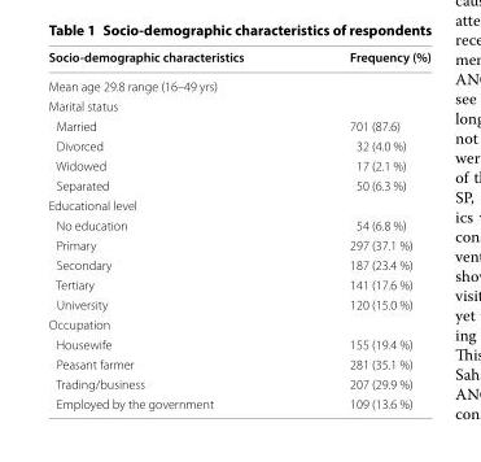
<table><thead><tr><td>Socio-demographic characteristics</td><td>Frequency (%)</td></tr></thead><tbody><tr><td colspan="2">Mean age 29.8 range (16–49 yrs)</td></tr><tr><td colspan="2">Marital status</td></tr><tr><td>Married</td><td>701 (87.6)</td></tr><tr><td>Divorced</td><td>32 (4.0 %)</td></tr><tr><td>Widowed</td><td>17 (2.1 %)</td></tr><tr><td>Separated</td><td>50 (6.3 %)</td></tr><tr><td colspan="2">Educational level</td></tr><tr><td>No education</td><td>54 (6.8 %)</td></tr><tr><td>Primary</td><td>297 (37.1 %)</td></tr><tr><td>Secondary</td><td>187 (23.4 %)</td></tr><tr><td>Tertiary</td><td>141 (17.6 %)</td></tr><tr><td>University</td><td>120 (15.0 %)</td></tr><tr><td colspan="2">Occupation</td></tr><tr><td>Housewife</td><td>155 (19.4 %)</td></tr><tr><td>Peasant farmer</td><td>281 (35.1 %)</td></tr><tr><td>Trading/business</td><td>207 (29.9 %)</td></tr><tr><td>Employed by the government</td><td>109 (13.6 %)</td></tr></tbody></table>